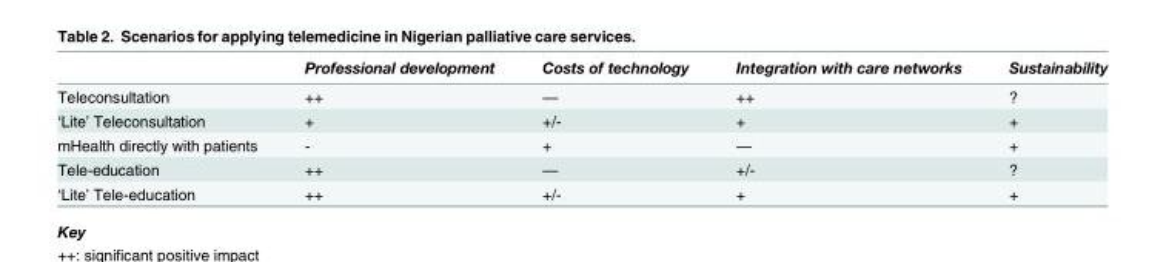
<table><thead><tr><td></td><td>Professional development</td><td>Costs of technology</td><td>Integration with care networks</td><td>Sustainability</td></tr></thead><tbody><tr><td>Teleconsultation</td><td>++</td><td>—</td><td>++</td><td>?</td></tr><tr><td>‘Lite’ Teleconsultation</td><td>+</td><td>+/-</td><td>+</td><td>+</td></tr><tr><td>mHealth directly with patients</td><td>-</td><td>+</td><td>—</td><td>+</td></tr><tr><td>Tele-education</td><td>++</td><td>—</td><td>+/-</td><td>?</td></tr><tr><td>‘Lite’ Tele-education</td><td>++</td><td>+/-</td><td>+</td><td>+</td></tr></tbody></table>